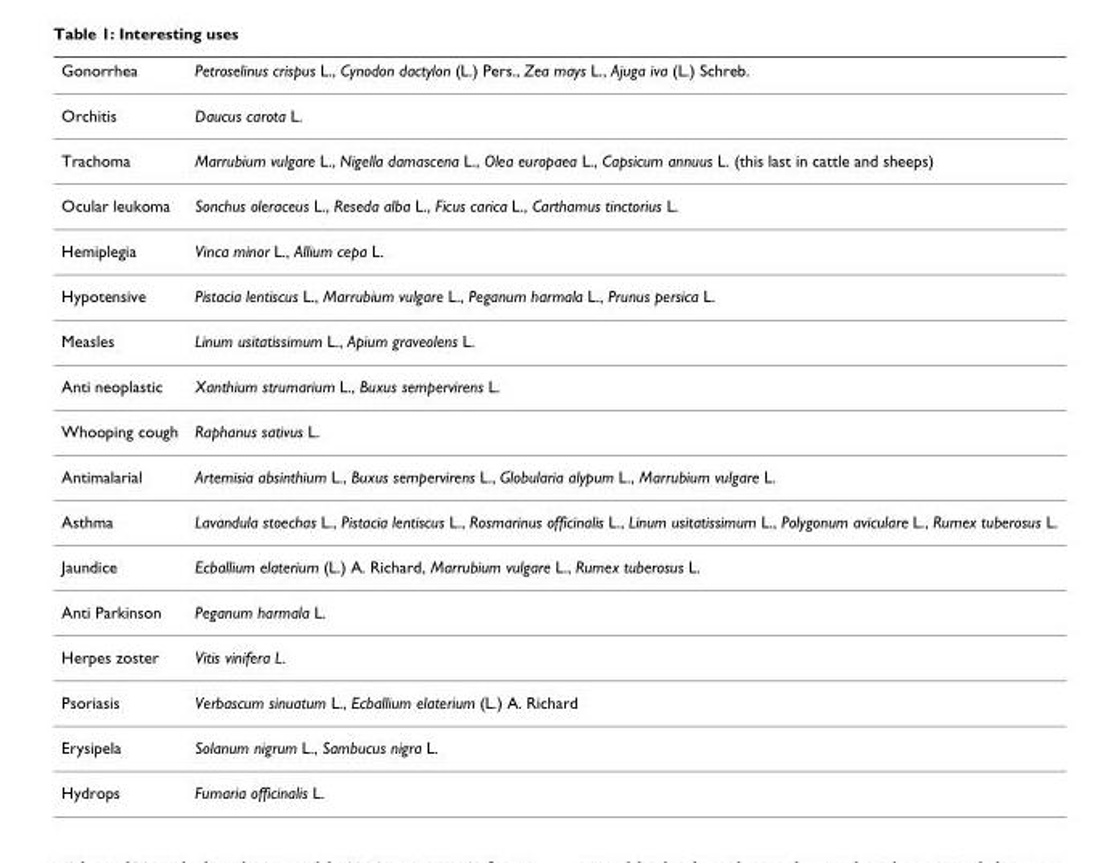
<table><thead><tr><td>Gonorrhea</td><td>Petroselinus crispus L., Cynodon dactylon (L.) Pers., Zea mays L., Ajuga iva (L.) Schreb.</td></tr></thead><tbody><tr><td>Orchitis</td><td>Daucus carota L.</td></tr><tr><td>Trachoma</td><td>Marrubium vulgare L., Nigella damascena L., Olea europaea L., Capsicum annuus L. (this last in cattle and sheeps)</td></tr><tr><td>Ocular leukoma</td><td>Sonchus oleraceus L., Reseda alba L., Ficus carica L., Carthamus tinctorius L.</td></tr><tr><td>Hemiplegia</td><td>Vinca minor L., Allium cepa L.</td></tr><tr><td>Hypotensive</td><td>Pistacia lentiscus L., Marrubium vulgare L., Peganum harmala L., Prunus persica L.</td></tr><tr><td>Measles</td><td>Linum usitatissimum L., Apium graveolens L.</td></tr><tr><td>Anti neoplastic</td><td>Xanthium strumarium L., Buxus sempervirens L.</td></tr><tr><td>Whooping cough</td><td>Raphanus sativus L.</td></tr><tr><td>Antimalarial</td><td>Artemisia absinthium L., Buxus sempervirens L., Globularia alypum L., Marrubium vulgare L.</td></tr><tr><td>Asthma</td><td>Lavandula stoechas L., Pistacia lentiscus L., Rosmarinus officinalis L., Linum usitatissimum L., Polygonum aviculare L., Rumex tuberosus L.</td></tr><tr><td>Jaundice</td><td>Ecballium elaterium (L.) A. Richard, Marrubium vulgare L., Rumex tuberosus L.</td></tr><tr><td>Anti Parkinson</td><td>Peganum harmala L.</td></tr><tr><td>Herpes zoster</td><td>Vitis vinifera L.</td></tr><tr><td>Psoriasis</td><td>Verbascum sinuatum L., Ecballium elaterium (L.) A. Richard</td></tr><tr><td>Erysipela</td><td>Solanum nigrum L., Sambucus nigra L.</td></tr><tr><td>Hydrops</td><td>Fumaria officinalis L.</td></tr></tbody></table>